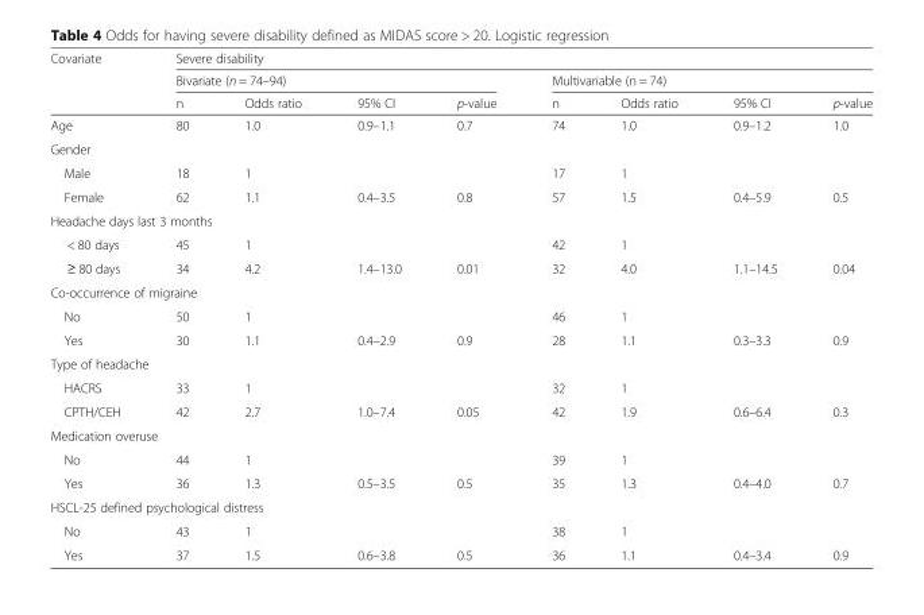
<table><thead><tr><td rowspan="3">Covariate</td><td colspan="8">Severe disability</td></tr><tr><td colspan="4">Bivariate (n = 74–94)</td><td colspan="4">Multivariable (n = 74)</td></tr><tr><td>n</td><td>Odds ratio</td><td>95% CI</td><td>p-value</td><td>n</td><td>Odds ratio</td><td>95% CI</td><td>p-value</td></tr></thead><tbody><tr><td>Age</td><td>80</td><td>1.0</td><td>0.9–1.1</td><td>0.7</td><td>74</td><td>1.0</td><td>0.9–1.2</td><td>1.0</td></tr><tr><td colspan="9">Gender</td></tr><tr><td>Male</td><td>18</td><td>1</td><td></td><td></td><td>17</td><td>1</td><td></td><td></td></tr><tr><td>Female</td><td>62</td><td>1.1</td><td>0.4–3.5</td><td>0.8</td><td>57</td><td>1.5</td><td>0.4–5.9</td><td>0.5</td></tr><tr><td colspan="9">Headache days last 3 months</td></tr><tr><td>&lt; 80 days</td><td>45</td><td>1</td><td></td><td></td><td>42</td><td>1</td><td></td><td></td></tr><tr><td>≥ 80 days</td><td>34</td><td>4.2</td><td>1.4–13.0</td><td>0.01</td><td>32</td><td>4.0</td><td>1.1–14.5</td><td>0.04</td></tr><tr><td colspan="9">Co-occurrence of migraine</td></tr><tr><td>No</td><td>50</td><td>1</td><td></td><td></td><td>46</td><td>1</td><td></td><td></td></tr><tr><td>Yes</td><td>30</td><td>1.1</td><td>0.4–2.9</td><td>0.9</td><td>28</td><td>1.1</td><td>0.3–3.3</td><td>0.9</td></tr><tr><td colspan="9">Type of headache</td></tr><tr><td>HACRS</td><td>33</td><td>1</td><td></td><td></td><td>32</td><td>1</td><td></td><td></td></tr><tr><td>CPTH/CEH</td><td>42</td><td>2.7</td><td>1.0–7.4</td><td>0.05</td><td>42</td><td>1.9</td><td>0.6–6.4</td><td>0.3</td></tr><tr><td colspan="9">Medication overuse</td></tr><tr><td>No</td><td>44</td><td>1</td><td></td><td></td><td>39</td><td>1</td><td></td><td></td></tr><tr><td>Yes</td><td>36</td><td>1.3</td><td>0.5–3.5</td><td>0.5</td><td>35</td><td>1.3</td><td>0.4–4.0</td><td>0.7</td></tr><tr><td colspan="9">HSCL-25 defined psychological distress</td></tr><tr><td>No</td><td>43</td><td>1</td><td></td><td></td><td>38</td><td>1</td><td></td><td></td></tr><tr><td>Yes</td><td>37</td><td>1.5</td><td>0.6–3.8</td><td>0.5</td><td>36</td><td>1.1</td><td>0.4–3.4</td><td>0.9</td></tr></tbody></table>